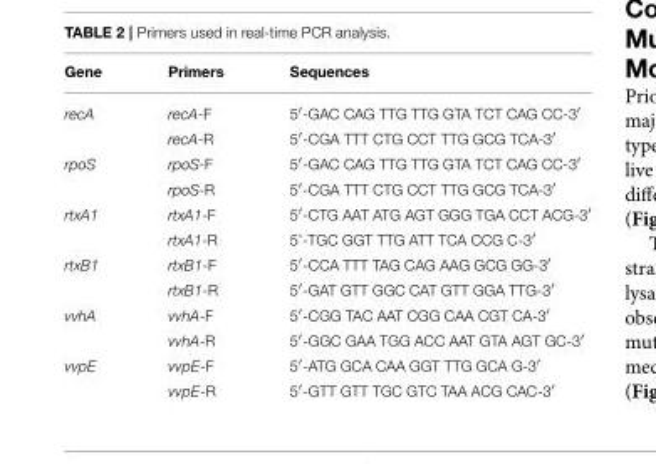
<table><thead><tr><td>Gene</td><td>Primers</td><td>Sequences</td></tr></thead><tbody><tr><td rowspan="2">recA</td><td>recA-F</td><td>5′-GAC CAG TTG TTG GTA TCT CAG CC-3′</td></tr><tr><td>recA-R</td><td>5′-CGA TTT CTG CCT TTG GCG TCA-3′</td></tr><tr><td rowspan="2">rpoS</td><td>rpoS-F</td><td>5′-GAC CAG TTG TTG GTA TCT CAG CC-3′</td></tr><tr><td>rpoS-R</td><td>5′-CGA TTT CTG CCT TTG GCG TCA-3′</td></tr><tr><td rowspan="2">rtxA1</td><td>rtxA1-F</td><td>5′-CTG AAT ATG AGT GGG TGA CCT ACG-3′</td></tr><tr><td>rtxA1-R</td><td>5’-TGC GGT TTG ATT TCA CCG C-3′</td></tr><tr><td rowspan="2">rtxB1</td><td>rtxB1-F</td><td>5′-CCA TTT TAG CAG AAG GCG GG-3′</td></tr><tr><td>rtxB1-R</td><td>5′-GAT GTT GGC CAT GTT GGA TTG-3′</td></tr><tr><td rowspan="2">vvhA</td><td>vvhA-F</td><td>5′-CGG TAC AAT CGG CAA CGT CA-3′</td></tr><tr><td>vvhA-R</td><td>5′-GGC GAA TGG ACC AAT GTA AGT GC-3′</td></tr><tr><td rowspan="2">vvpE</td><td>vvpE-F</td><td>5′-ATG GCA CAA GGT TTG GCA G-3′</td></tr><tr><td>vvpE-R</td><td>5′-GTT GTT TGC GTC TAA ACG CAC-3′</td></tr></tbody></table>